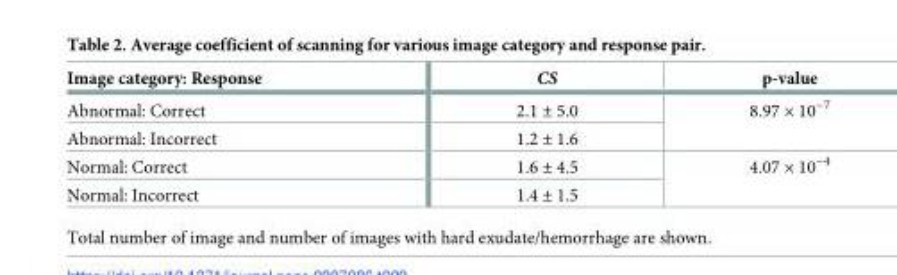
<table><thead><tr><td>Image category: Response</td><td>CS</td><td>p-value</td></tr></thead><tbody><tr><td>Abnormal: Correct</td><td>2.1 ± 5.0</td><td rowspan="2">8.97 × 10<sup>−7</sup></td></tr><tr><td>Abnormal: Incorrect</td><td>1.2 ± 1.6</td></tr><tr><td>Normal: Correct</td><td>1.6 ± 4.5</td><td rowspan="2">4.07 × 10<sup>−4</sup></td></tr><tr><td>Normal: Incorrect</td><td>1.4 ± 1.5</td></tr></tbody></table>